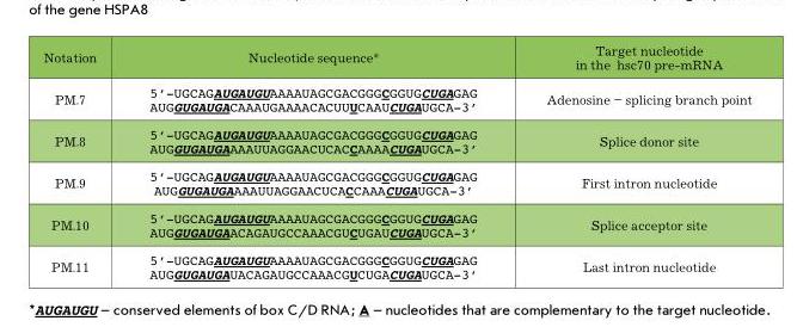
<table><thead><tr><td>notation</td><td>nucleotide sequence*</td><td>target nucleotide in the hsc70 pre-mrnA</td></tr></thead><tbody><tr><td>РМ.7</td><td>5’-UGCAGAUGAUGUAAAAUAGCGACGGGCGGUGCUGAGAG AUGGUGAUGACAAAUGAAAACACUUUCAAUCUGAUGCA-3’</td><td>Adenosine – splicing branch point</td></tr><tr><td>РМ.8</td><td>5’-UGCAGAUGAUGUAAAAUAGCGACGGGCGGUGCUGAGAG AUGGUGAUGAAAAUUAGGAACUCACCAAAACUGAUGCA-3’</td><td>Splice donor site</td></tr><tr><td>РМ.9</td><td>5’-UGCAGAUGAUGUAAAAUAGCGACGGGCGGUGCUGAGAG AUGGUGAUGAAAAUUAGGAACUCACCAAACUGAUGCA-3’</td><td>First intron nucleotide</td></tr><tr><td>РМ.10</td><td>5’-UGCAGAUGAUGUAAAAUAGCGACGGGCGGUGCUGAGAG AUGGUGAUGAACAGAUGCCAAACGUCUGAUCUGAUGCA-3’</td><td>Splice acceptor site</td></tr><tr><td>РМ.11</td><td>5’-UGCAGAUGAUGUAAAAUAGCGACGGGCGGUGCUGAGAG AUGGUGAUGAUACAGAUGCCAAACGUCUGACUGAUGCA-3’</td><td>Last intron nucleotide</td></tr></tbody></table>